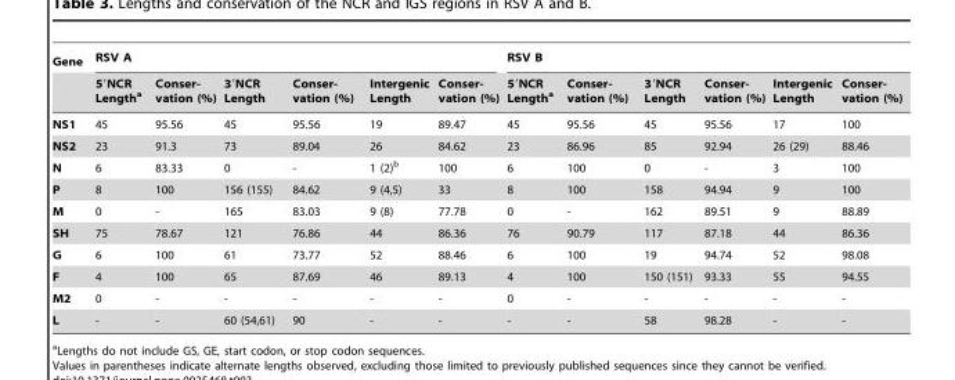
<table><thead><tr><td rowspan="2">Gene</td><td colspan="6">RSV A</td><td colspan="6">RSV B</td></tr><tr><td>5′NCR Length<sup>a</sup></td><td>Conser- vation (%)</td><td>3′NCR Length</td><td>Conser- vation (%)</td><td>Intergenic Length</td><td>Conser- vation (%)</td><td>5′NCR Length<sup>a</sup></td><td>Conser- vation (%)</td><td>3′NCR Length</td><td>Conser- vation (%)</td><td>Intergenic Length</td><td>Conser- vation (%)</td></tr></thead><tbody><tr><td>NS1</td><td>45</td><td>95.56</td><td>45</td><td>95.56</td><td>19</td><td>89.47</td><td>45</td><td>95.56</td><td>45</td><td>95.56</td><td>17</td><td>100</td></tr><tr><td>NS2</td><td>23</td><td>91.3</td><td>73</td><td>89.04</td><td>26</td><td>84.62</td><td>23</td><td>86.96</td><td>85</td><td>92.94</td><td>26 (29)</td><td>88.46</td></tr><tr><td>N</td><td>6</td><td>83.33</td><td>0</td><td>-</td><td>1 (2)<sup>b</sup></td><td>100</td><td>6</td><td>100</td><td>0</td><td>-</td><td>3</td><td>100</td></tr><tr><td>P</td><td>8</td><td>100</td><td>156 (155)</td><td>84.62</td><td>9 (4,5)</td><td>33</td><td>8</td><td>100</td><td>158</td><td>94.94</td><td>9</td><td>100</td></tr><tr><td>M</td><td>0</td><td>-</td><td>165</td><td>83.03</td><td>9 (8)</td><td>77.78</td><td>0</td><td>-</td><td>162</td><td>89.51</td><td>9</td><td>88.89</td></tr><tr><td>SH</td><td>75</td><td>78.67</td><td>121</td><td>76.86</td><td>44</td><td>86.36</td><td>76</td><td>90.79</td><td>117</td><td>87.18</td><td>44</td><td>86.36</td></tr><tr><td>G</td><td>6</td><td>100</td><td>61</td><td>73.77</td><td>52</td><td>88.46</td><td>6</td><td>100</td><td>19</td><td>94.74</td><td>52</td><td>98.08</td></tr><tr><td>F</td><td>4</td><td>100</td><td>65</td><td>87.69</td><td>46</td><td>89.13</td><td>4</td><td>100</td><td>150 (151)</td><td>93.33</td><td>55</td><td>94.55</td></tr><tr><td>M2</td><td>0</td><td>-</td><td>-</td><td>-</td><td>-</td><td>-</td><td>0</td><td>-</td><td>-</td><td>-</td><td>-</td><td>-</td></tr><tr><td>L</td><td>-</td><td>-</td><td>60 (54,61)</td><td>90</td><td>-</td><td>-</td><td>-</td><td>-</td><td>58</td><td>98.28</td><td>-</td><td>-</td></tr></tbody></table>